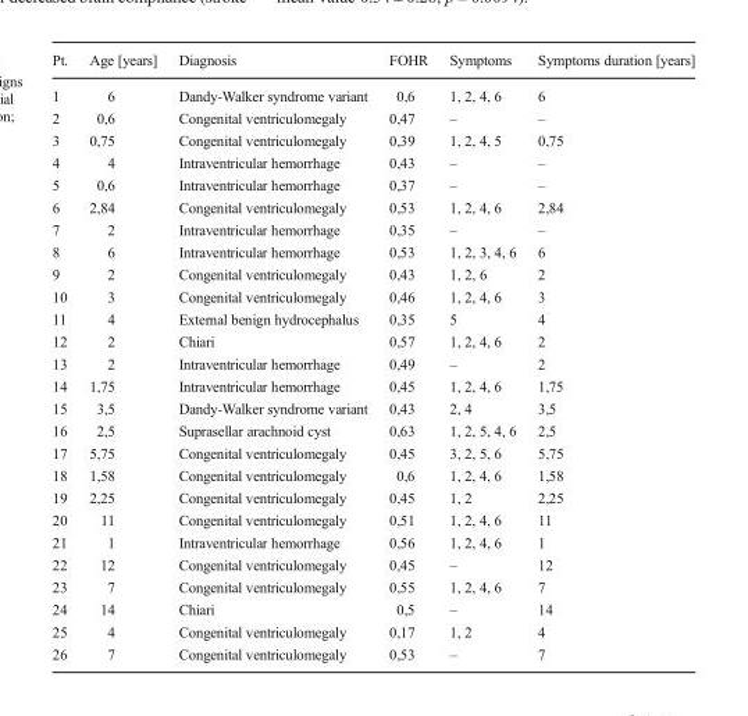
<table><thead><tr><td>Pt.</td><td>Age [years]</td><td>Diagnosis</td><td>FOHR</td><td>Symptoms</td><td>Symptoms duration [years]</td></tr></thead><tbody><tr><td>1</td><td>6</td><td>Dandy-Walker syndrome variant</td><td>0,6</td><td>1, 2, 4, 6</td><td>6</td></tr><tr><td>2</td><td>0,6</td><td>Congenital ventriculomegaly</td><td>0,47</td><td>–</td><td>–</td></tr><tr><td>3</td><td>0,75</td><td>Congenital ventriculomegaly</td><td>0,39</td><td>1, 2, 4, 5</td><td>0,75</td></tr><tr><td>4</td><td>4</td><td>Intraventricular hemorrhage</td><td>0,43</td><td>–</td><td>–</td></tr><tr><td>5</td><td>0,6</td><td>Intraventricular hemorrhage</td><td>0,37</td><td>–</td><td>–</td></tr><tr><td>6</td><td>2,84</td><td>Congenital ventriculomegaly</td><td>0,53</td><td>1, 2, 4, 6</td><td>2,84</td></tr><tr><td>7</td><td>2</td><td>Intraventricular hemorrhage</td><td>0,35</td><td>–</td><td>–</td></tr><tr><td>8</td><td>6</td><td>Intraventricular hemorrhage</td><td>0,53</td><td>1, 2, 3, 4, 6</td><td>6</td></tr><tr><td>9</td><td>2</td><td>Congenital ventriculomegaly</td><td>0,43</td><td>1, 2, 6</td><td>2</td></tr><tr><td>10</td><td>3</td><td>Congenital ventriculomegaly</td><td>0,46</td><td>1, 2, 4, 6</td><td>3</td></tr><tr><td>11</td><td>4</td><td>External benign hydrocephalus</td><td>0,35</td><td>5</td><td>4</td></tr><tr><td>12</td><td>2</td><td>Chiari</td><td>0,57</td><td>1, 2, 4, 6</td><td>2</td></tr><tr><td>13</td><td>2</td><td>Intraventricular hemorrhage</td><td>0,49</td><td>–</td><td>2</td></tr><tr><td>14</td><td>1,75</td><td>Intraventricular hemorrhage</td><td>0,45</td><td>1, 2, 4, 6</td><td>1,75</td></tr><tr><td>15</td><td>3,5</td><td>Dandy-Walker syndrome variant</td><td>0,43</td><td>2, 4</td><td>3,5</td></tr><tr><td>16</td><td>2,5</td><td>Suprasellar arachnoid cyst</td><td>0,63</td><td>1, 2, 5, 4, 6</td><td>2,5</td></tr><tr><td>17</td><td>5,75</td><td>Congenital ventriculomegaly</td><td>0,45</td><td>3, 2, 5, 6</td><td>5,75</td></tr><tr><td>18</td><td>1,58</td><td>Congenital ventriculomegaly</td><td>0,6</td><td>1, 2, 4, 6</td><td>1,58</td></tr><tr><td>19</td><td>2,25</td><td>Congenital ventriculomegaly</td><td>0,45</td><td>1, 2</td><td>2,25</td></tr><tr><td>20</td><td>11</td><td>Congenital ventriculomegaly</td><td>0,51</td><td>1, 2, 4, 6</td><td>11</td></tr><tr><td>21</td><td>1</td><td>Intraventricular hemorrhage</td><td>0,56</td><td>1, 2, 4, 6</td><td>1</td></tr><tr><td>22</td><td>12</td><td>Congenital ventriculomegaly</td><td>0,45</td><td>–</td><td>12</td></tr><tr><td>23</td><td>7</td><td>Congenital ventriculomegaly</td><td>0,55</td><td>1, 2, 4, 6</td><td>7</td></tr><tr><td>24</td><td>14</td><td>Chiari</td><td>0,5</td><td>–</td><td>14</td></tr><tr><td>25</td><td>4</td><td>Congenital ventriculomegaly</td><td>0,17</td><td>1, 2</td><td>4</td></tr><tr><td>26</td><td>7</td><td>Congenital ventriculomegaly</td><td>0,53</td><td>–</td><td>7</td></tr></tbody></table>